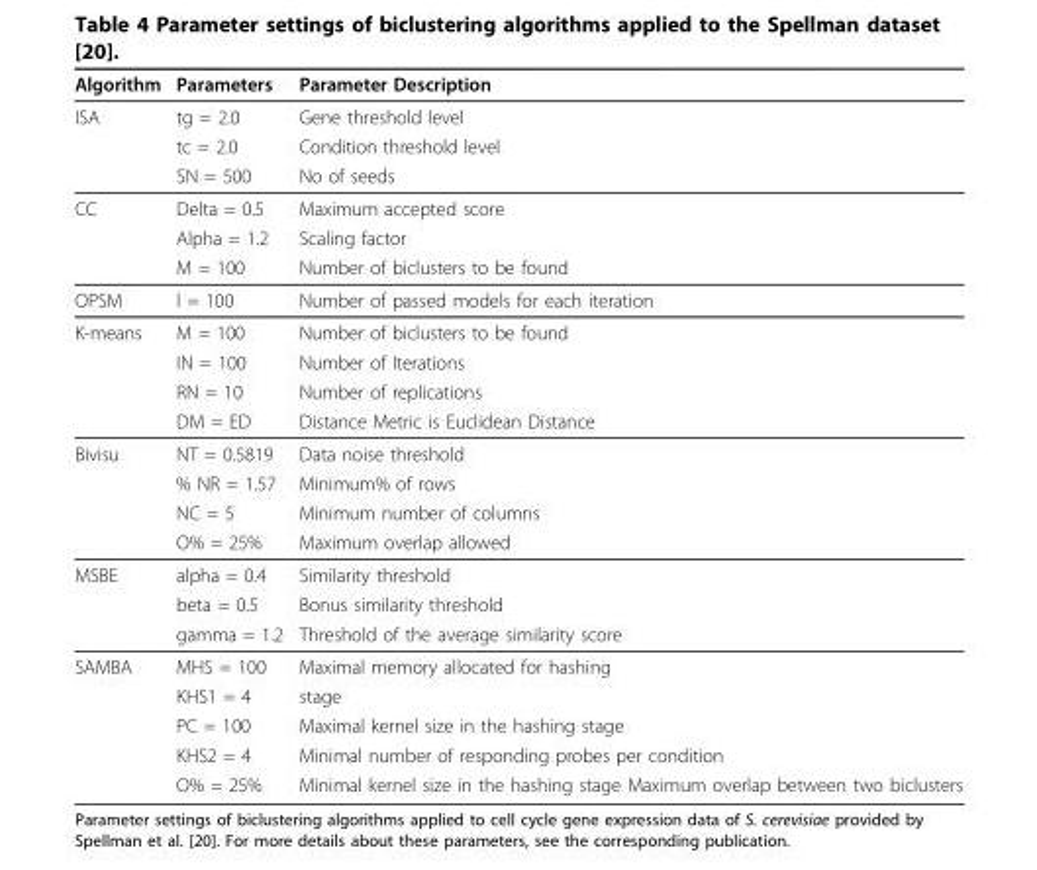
<table><thead><tr><td>Algorithm</td><td>Parameters</td><td>Parameter Description</td></tr></thead><tbody><tr><td rowspan="3">ISA</td><td>tg = 2.0</td><td>Gene threshold level</td></tr><tr><td>tc = 2.0</td><td>Condition threshold level</td></tr><tr><td>SN = 500</td><td>No of seeds</td></tr><tr><td rowspan="3">CC</td><td>Delta = 0.5</td><td>Maximum accepted score</td></tr><tr><td>Alpha = 1.2</td><td>Scaling factor</td></tr><tr><td>M = 100</td><td>Number of biclusters to be found</td></tr><tr><td>OPSM</td><td>l = 100</td><td>Number of passed models for each iteration</td></tr><tr><td rowspan="4">K-means</td><td>M = 100</td><td>Number of biclusters to be found</td></tr><tr><td>IN = 100</td><td>Number of Iterations</td></tr><tr><td>RN = 10</td><td>Number of replications</td></tr><tr><td>DM = ED</td><td>Distance Metric is Euclidean Distance</td></tr><tr><td rowspan="4">Bivisu</td><td>NT = 0.5819</td><td>Data noise threshold</td></tr><tr><td>% NR = 1.57</td><td>Minimum% of rows</td></tr><tr><td>NC = 5</td><td>Minimum number of columns</td></tr><tr><td>O% = 25%</td><td>Maximum overlap allowed</td></tr><tr><td rowspan="3">MSBE</td><td>alpha = 0.4</td><td>Similarity threshold</td></tr><tr><td>beta = 0.5</td><td>Bonus similarity threshold</td></tr><tr><td>gamma = 1.2</td><td>Threshold of the average similarity score</td></tr><tr><td rowspan="5">SAMBA</td><td>MHS = 100</td><td>Maximal memory allocated for hashing</td></tr><tr><td>KHS1 = 4</td><td>stage</td></tr><tr><td>PC = 100</td><td>Maximal kernel size in the hashing stage</td></tr><tr><td>KHS2 = 4</td><td>Minimal number of responding probes per condition</td></tr><tr><td>O% = 25%</td><td>Minimal kernel size in the hashing stage Maximum overlap between two biclusters</td></tr></tbody></table>